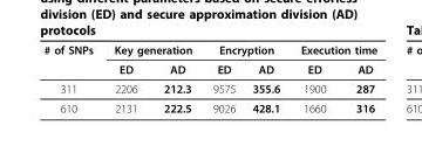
<table><thead><tr><td rowspan="2"># of SNPs</td><td colspan="2">Key generation</td><td colspan="2">Encryption</td><td colspan="2">Execution time</td></tr><tr><td>ED</td><td>AD</td><td>ED</td><td>AD</td><td>ED</td><td>AD</td></tr></thead><tbody><tr><td>311</td><td>2206</td><td>212.3</td><td>9575</td><td>355.6</td><td>1900</td><td>287</td></tr><tr><td>610</td><td>2131</td><td>222.5</td><td>9026</td><td>428.1</td><td>1660</td><td>316</td></tr></tbody></table>